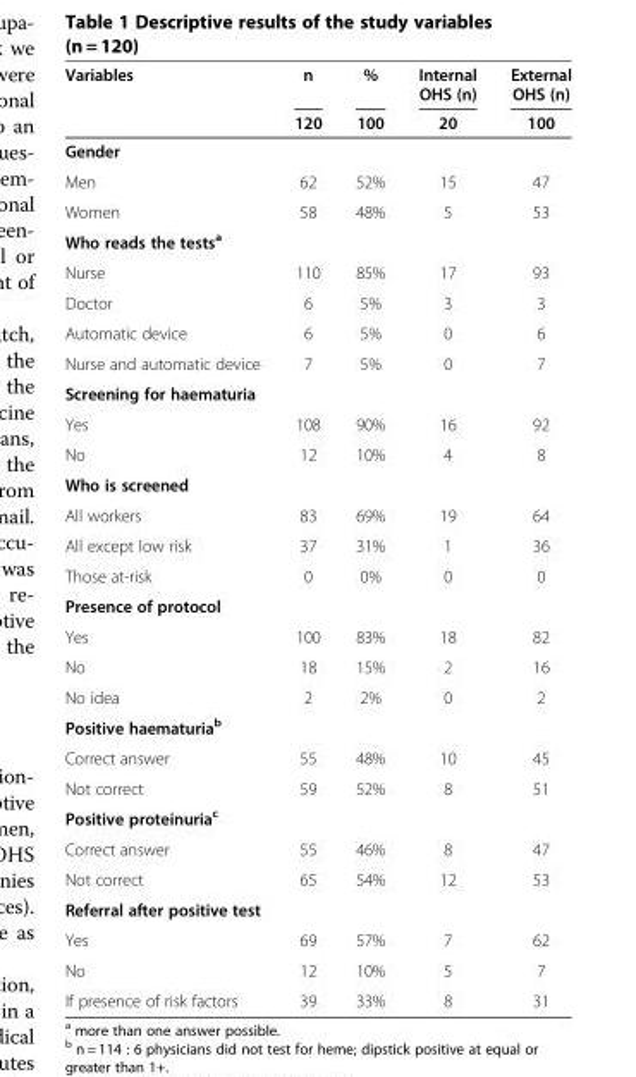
<table><thead><tr><td rowspan="2">Variables</td><td rowspan="2">n 120</td><td rowspan="2">% 100</td><td rowspan="2">Internal OHS (n) 20</td><td rowspan="2">External OHS (n) 100</td></tr><tr></tr></thead><tbody><tr><td colspan="5">Gender</td></tr><tr><td>Men</td><td>62</td><td>52%</td><td>15</td><td>47</td></tr><tr><td>Women</td><td>58</td><td>48%</td><td>5</td><td>53</td></tr><tr><td colspan="5">Who reads the tests<sup>a</sup></td></tr><tr><td>Nurse</td><td>110</td><td>85%</td><td>17</td><td>93</td></tr><tr><td>Doctor</td><td>6</td><td>5%</td><td>3</td><td>3</td></tr><tr><td>Automatic device</td><td>6</td><td>5%</td><td>0</td><td>6</td></tr><tr><td>Nurse and automatic device</td><td>7</td><td>5%</td><td>0</td><td>7</td></tr><tr><td colspan="5">Screening for haematuria</td></tr><tr><td>Yes</td><td>108</td><td>90%</td><td>16</td><td>92</td></tr><tr><td>No</td><td>12</td><td>10%</td><td>4</td><td>8</td></tr><tr><td colspan="5">Who is screened</td></tr><tr><td>All workers</td><td>83</td><td>69%</td><td>19</td><td>64</td></tr><tr><td>All except low risk</td><td>37</td><td>31%</td><td>1</td><td>36</td></tr><tr><td>Those at-risk</td><td>0</td><td>0%</td><td>0</td><td>0</td></tr><tr><td colspan="5">Presence of protocol</td></tr><tr><td>Yes</td><td>100</td><td>83%</td><td>18</td><td>82</td></tr><tr><td>No</td><td>18</td><td>15%</td><td>2</td><td>16</td></tr><tr><td>No idea</td><td>2</td><td>2%</td><td>0</td><td>2</td></tr><tr><td colspan="5">Positive haematuria<sup>b</sup></td></tr><tr><td>Correct answer</td><td>55</td><td>48%</td><td>10</td><td>45</td></tr><tr><td>Not correct</td><td>59</td><td>52%</td><td>8</td><td>51</td></tr><tr><td colspan="5">Positive proteinuria<sup>c</sup></td></tr><tr><td>Correct answer</td><td>55</td><td>46%</td><td>8</td><td>47</td></tr><tr><td>Not correct</td><td>65</td><td>54%</td><td>12</td><td>53</td></tr><tr><td colspan="5">Referral after positive test</td></tr><tr><td>Yes</td><td>69</td><td>57%</td><td>7</td><td>62</td></tr><tr><td>No</td><td>12</td><td>10%</td><td>5</td><td>7</td></tr><tr><td>If presence of risk factors</td><td>39</td><td>33%</td><td>8</td><td>31</td></tr></tbody></table>